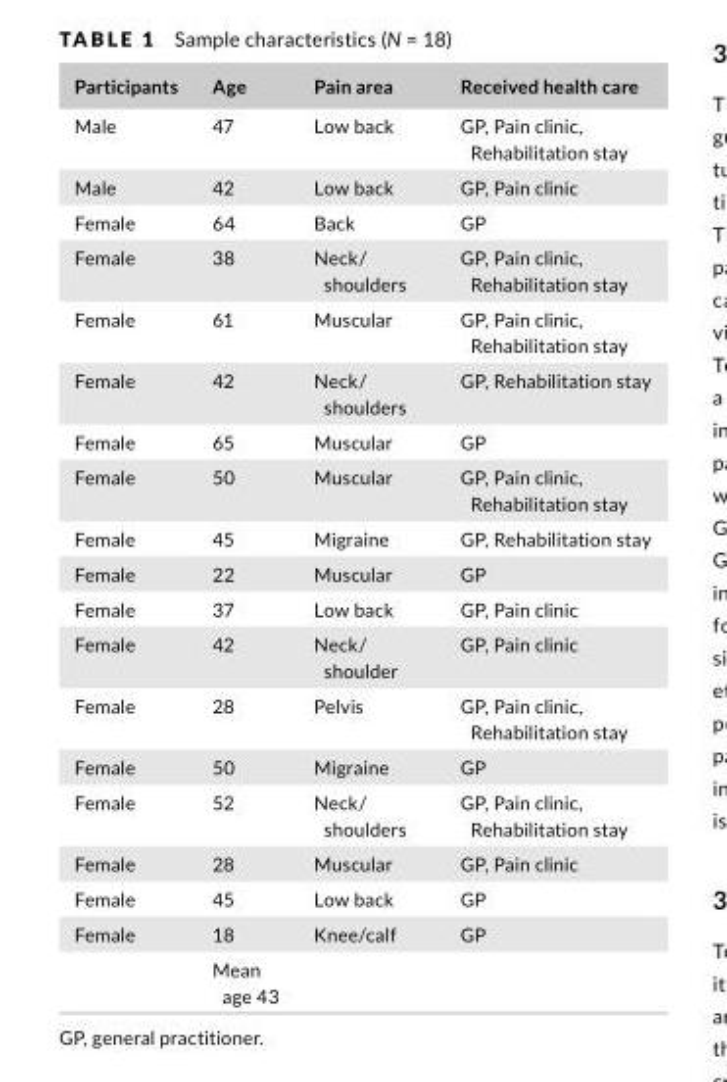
<table><thead><tr><td>Participants</td><td>Age</td><td>Pain area</td><td>Received health care</td></tr></thead><tbody><tr><td>Male</td><td>47</td><td>Low back</td><td>GP, Pain clinic, Rehabilitation stay</td></tr><tr><td>Male</td><td>42</td><td>Low back</td><td>GP, Pain clinic</td></tr><tr><td>Female</td><td>64</td><td>Back</td><td>GP</td></tr><tr><td>Female</td><td>38</td><td>Neck/ shoulders</td><td>GP, Pain clinic, Rehabilitation stay</td></tr><tr><td>Female</td><td>61</td><td>Muscular</td><td>GP, Pain clinic, Rehabilitation stay</td></tr><tr><td>Female</td><td>42</td><td>Neck/ shoulders</td><td>GP, Rehabilitation stay</td></tr><tr><td>Female</td><td>65</td><td>Muscular</td><td>GP</td></tr><tr><td>Female</td><td>50</td><td>Muscular</td><td>GP, Pain clinic, Rehabilitation stay</td></tr><tr><td>Female</td><td>45</td><td>Migraine</td><td>GP, Rehabilitation stay</td></tr><tr><td>Female</td><td>22</td><td>Muscular</td><td>GP</td></tr><tr><td>Female</td><td>37</td><td>Low back</td><td>GP, Pain clinic</td></tr><tr><td>Female</td><td>42</td><td>Neck/ shoulder</td><td>GP, Pain clinic</td></tr><tr><td>Female</td><td>28</td><td>Pelvis</td><td>GP, Pain clinic, Rehabilitation stay</td></tr><tr><td>Female</td><td>50</td><td>Migraine</td><td>GP</td></tr><tr><td>Female</td><td>52</td><td>Neck/ shoulders</td><td>GP, Pain clinic, Rehabilitation stay</td></tr><tr><td>Female</td><td>28</td><td>Muscular</td><td>GP, Pain clinic</td></tr><tr><td>Female</td><td>45</td><td>Low back</td><td>GP</td></tr><tr><td rowspan="2">Female</td><td>18</td><td>Knee/calf</td><td>GP</td></tr><tr><td>Mean age 43</td><td></td><td></td></tr></tbody></table>